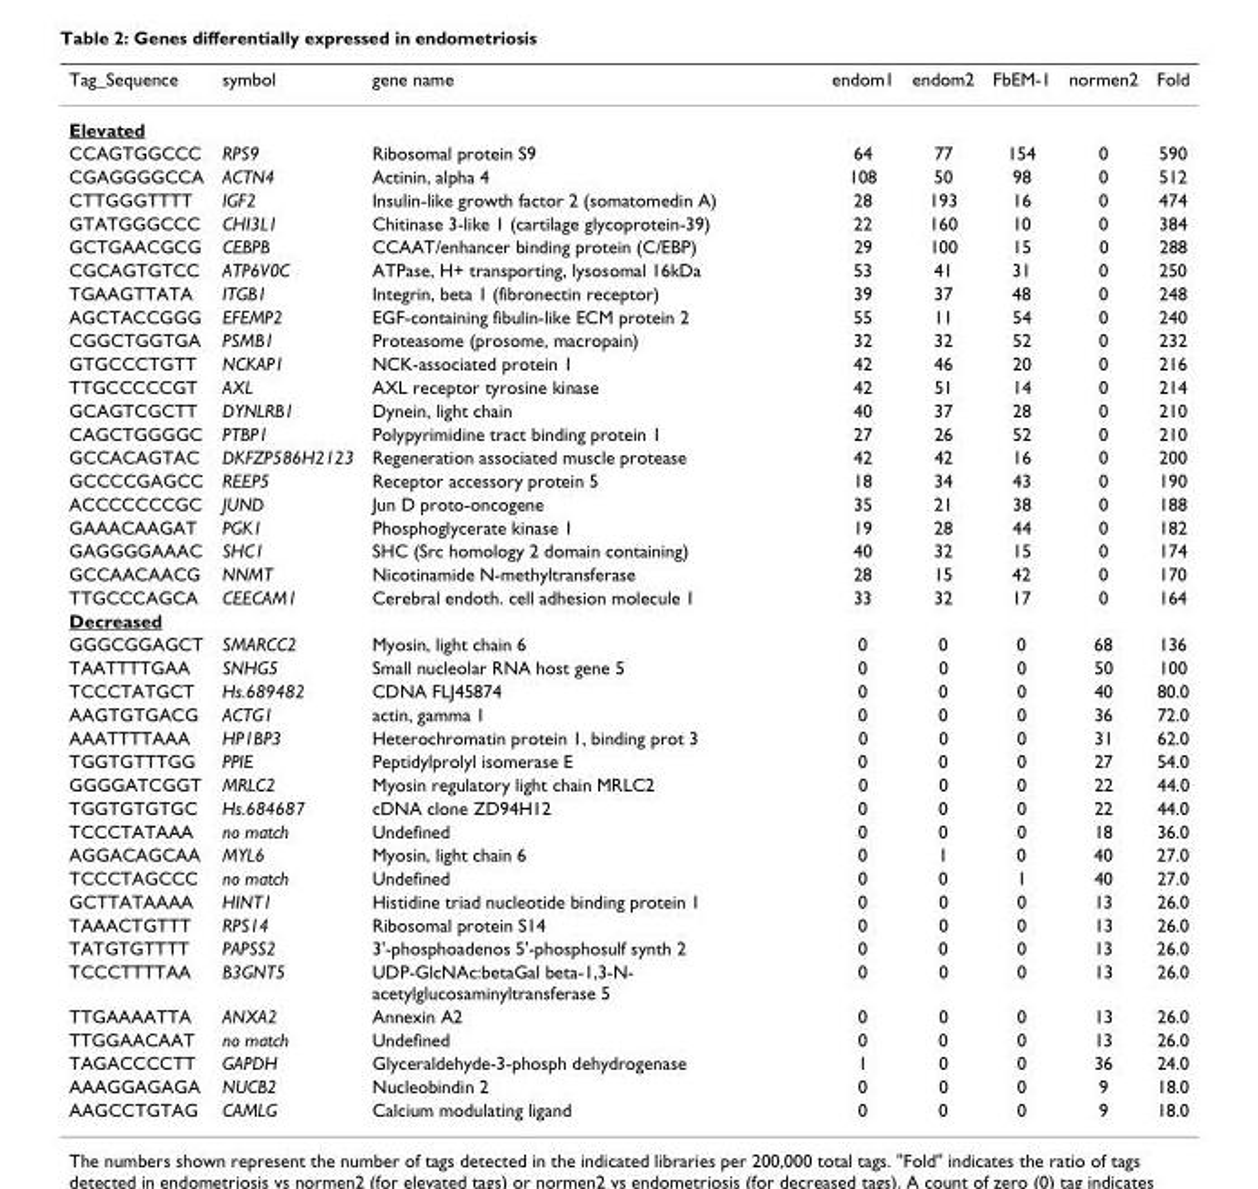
<table><thead><tr><td>Tag_Sequence</td><td>symbol</td><td>gene name</td><td>endom1</td><td>endom2</td><td>FbEM-1</td><td>normen2</td><td>Fold</td></tr></thead><tbody><tr><td colspan="8">Elevated</td></tr><tr><td>CCAGTGGCCC</td><td>RPS9</td><td>Ribosomal protein S9</td><td>64</td><td>77</td><td>154</td><td>0</td><td>590</td></tr><tr><td>CGAGGGGCCA</td><td>ACTN4</td><td>Actinin, alpha 4</td><td>108</td><td>50</td><td>98</td><td>0</td><td>512</td></tr><tr><td>CTTGGGTTTT</td><td>IGF2</td><td>Insulin-like growth factor 2 (somatomedin A)</td><td>28</td><td>193</td><td>16</td><td>0</td><td>474</td></tr><tr><td>GTATGGGCCC</td><td>CHI3L1</td><td>Chitinase 3-like 1 (cartilage glycoprotein-39)</td><td>22</td><td>160</td><td>10</td><td>0</td><td>384</td></tr><tr><td>GCTGAACGCG</td><td>CEBPB</td><td>CCAAT/enhancer binding protein (C/EBP)</td><td>29</td><td>100</td><td>15</td><td>0</td><td>288</td></tr><tr><td>CGCAGTGTCC</td><td>ATP6V0C</td><td>ATPase, H+ transporting, lysosomal 16kDa</td><td>53</td><td>41</td><td>31</td><td>0</td><td>250</td></tr><tr><td>TGAAGTTATA</td><td>ITGB1</td><td>Integrin, beta 1 (fibronectin receptor)</td><td>39</td><td>37</td><td>48</td><td>0</td><td>248</td></tr><tr><td>AGCTACCGGG</td><td>EFEMP2</td><td>EGF-containing fibulin-like ECM protein 2</td><td>55</td><td>11</td><td>54</td><td>0</td><td>240</td></tr><tr><td>CGGCTGGTGA</td><td>PSMB1</td><td>Proteasome (prosome, macropain)</td><td>32</td><td>32</td><td>52</td><td>0</td><td>232</td></tr><tr><td>GTGCCCTGTT</td><td>NCKAP1</td><td>NCK-associated protein 1</td><td>42</td><td>46</td><td>20</td><td>0</td><td>216</td></tr><tr><td>TTGCCCCCGT</td><td>AXL</td><td>AXL receptor tyrosine kinase</td><td>42</td><td>51</td><td>14</td><td>0</td><td>214</td></tr><tr><td>GCAGTCGCTT</td><td>DYNLRB1</td><td>Dynein, light chain</td><td>40</td><td>37</td><td>28</td><td>0</td><td>210</td></tr><tr><td>CAGCTGGGGC</td><td>PTBP1</td><td>Polypyrimidine tract binding protein 1</td><td>27</td><td>26</td><td>52</td><td>0</td><td>210</td></tr><tr><td>GCCACAGTAC</td><td>DKFZP586H2123</td><td>Regeneration associated muscle protease</td><td>42</td><td>42</td><td>16</td><td>0</td><td>200</td></tr><tr><td>GCCCCGAGCC</td><td>REEP5</td><td>Receptor accessory protein 5</td><td>18</td><td>34</td><td>43</td><td>0</td><td>190</td></tr><tr><td>ACCCCCCCGC</td><td>JUND</td><td>Jun D proto-oncogene</td><td>35</td><td>21</td><td>38</td><td>0</td><td>188</td></tr><tr><td>GAAACAAGAT</td><td>PGK1</td><td>Phosphoglycerate kinase 1</td><td>19</td><td>28</td><td>44</td><td>0</td><td>182</td></tr><tr><td>GAGGGGAAAC</td><td>SHC1</td><td>SHC (Src homology 2 domain containing)</td><td>40</td><td>32</td><td>15</td><td>0</td><td>174</td></tr><tr><td>GCCAACAACG</td><td>NNMT</td><td>Nicotinamide N-methyltransferase</td><td>28</td><td>15</td><td>42</td><td>0</td><td>170</td></tr><tr><td>TTGCCCAGCA</td><td>CEECAM1</td><td>Cerebral endoth. cell adhesion molecule 1</td><td>33</td><td>32</td><td>17</td><td>0</td><td>164</td></tr><tr><td colspan="8">Decreased</td></tr><tr><td>GGGCGGAGCT</td><td>SMARCC2</td><td>Myosin, light chain 6</td><td>0</td><td>0</td><td>0</td><td>68</td><td>136</td></tr><tr><td>TAATTTTGAA</td><td>SNHG5</td><td>Small nucleolar RNA host gene 5</td><td>0</td><td>0</td><td>0</td><td>50</td><td>100</td></tr><tr><td>TCCCTATGCT</td><td>Hs.689482</td><td>CDNA FLJ45874</td><td>0</td><td>0</td><td>0</td><td>40</td><td>80.0</td></tr><tr><td>AAGTGTGACG</td><td>ACTG1</td><td>actin, gamma 1</td><td>0</td><td>0</td><td>0</td><td>36</td><td>72.0</td></tr><tr><td>AAATTTTAAA</td><td>HP1BP3</td><td>Heterochromatin protein 1, binding prot 3</td><td>0</td><td>0</td><td>0</td><td>31</td><td>62.0</td></tr><tr><td>TGGTGTTTGG</td><td>PPIE</td><td>Peptidylprolyl isomerase E</td><td>0</td><td>0</td><td>0</td><td>27</td><td>54.0</td></tr><tr><td>GGGGATCGGT</td><td>MRLC2</td><td>Myosin regulatory light chain MRLC2</td><td>0</td><td>0</td><td>0</td><td>22</td><td>44.0</td></tr><tr><td>TGGTGTGTGC</td><td>Hs.684687</td><td>cDNA clone ZD94H12</td><td>0</td><td>0</td><td>0</td><td>22</td><td>44.0</td></tr><tr><td>TCCCTATAAA</td><td>no match</td><td>Undefined</td><td>0</td><td>0</td><td>0</td><td>18</td><td>36.0</td></tr><tr><td>AGGACAGCAA</td><td>MYL6</td><td>Myosin, light chain 6</td><td>0</td><td>1</td><td>0</td><td>40</td><td>27.0</td></tr><tr><td>TCCCTAGCCC</td><td>no match</td><td>Undefined</td><td>0</td><td>0</td><td>1</td><td>40</td><td>27.0</td></tr><tr><td>GCTTATAAAA</td><td>HINT1</td><td>Histidine triad nucleotide binding protein 1</td><td>0</td><td>0</td><td>0</td><td>13</td><td>26.0</td></tr><tr><td>TAAACTGTTT</td><td>RPS14</td><td>Ribosomal protein S14</td><td>0</td><td>0</td><td>0</td><td>13</td><td>26.0</td></tr><tr><td>TATGTGTTTT</td><td>PAPSS2</td><td>3&#x27;-phosphoadenos 5&#x27;-phosphosulf synth 2</td><td>0</td><td>0</td><td>0</td><td>13</td><td>26.0</td></tr><tr><td>TCCCTTTTAA</td><td>B3GNT5</td><td>UDP-GlcNAc:betaGal beta-1,3-N- acetylglucosaminyltransferase 5</td><td>0</td><td>0</td><td>0</td><td>13</td><td>26.0</td></tr><tr><td>TTGAAAATTA</td><td>ANXA2</td><td>Annexin A2</td><td>0</td><td>0</td><td>0</td><td>13</td><td>26.0</td></tr><tr><td>TTGGAACAAT</td><td>no match</td><td>Undefined</td><td>0</td><td>0</td><td>0</td><td>13</td><td>26.0</td></tr><tr><td>TAGACCCCTT</td><td>GAPDH</td><td>Glyceraldehyde-3-phosph dehydrogenase</td><td>1</td><td>0</td><td>0</td><td>36</td><td>24.0</td></tr><tr><td>AAAGGAGAGA</td><td>NUCB2</td><td>Nucleobindin 2</td><td>0</td><td>0</td><td>0</td><td>9</td><td>18.0</td></tr><tr><td>AAGCCTGTAG</td><td>CAMLG</td><td>Calcium modulating ligand</td><td>0</td><td>0</td><td>0</td><td>9</td><td>18.0</td></tr></tbody></table>